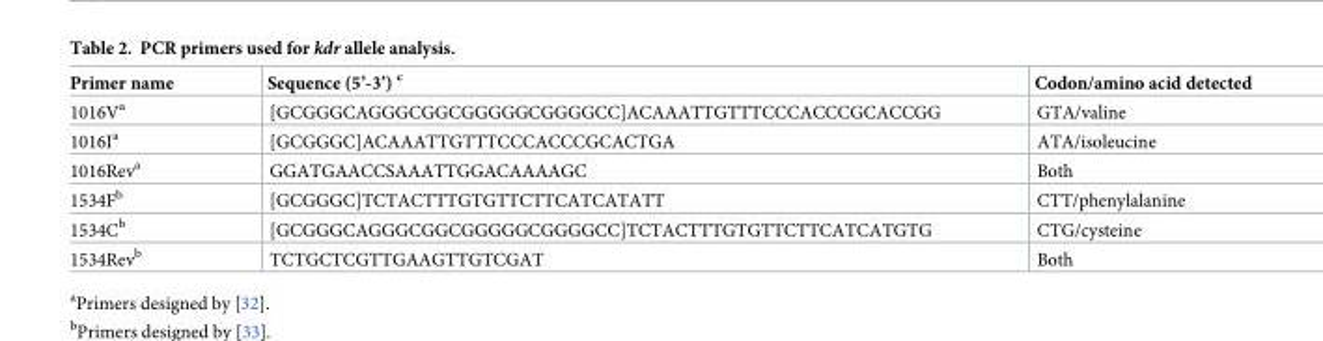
<table><thead><tr><td>Primer name</td><td>Sequence (5’-3’) <sup>c</sup></td><td>Codon/amino acid detected</td></tr></thead><tbody><tr><td>1016V<sup>a</sup></td><td>[GCGGGCAGGGCGGCGGGGGCGGGGCC]ACAAATTGTTTCCCACCCGCACCGG</td><td>GTA/valine</td></tr><tr><td>1016I<sup>a</sup></td><td>[GCGGGC]ACAAATTGTTTCCCACCCGCACTGA</td><td>ATA/isoleucine</td></tr><tr><td>1016Rev<sup>a</sup></td><td>GGATGAACCSAAATTGGACAAAAGC</td><td>Both</td></tr><tr><td>1534F<sup>b</sup></td><td>[GCGGGC]TCTACTTTGTGTTCTTCATCATATT</td><td>CTT/phenylalanine</td></tr><tr><td>1534C<sup>b</sup></td><td>[GCGGGCAGGGCGGCGGGGGCGGGGCC]TCTACTTTGTGTTCTTCATCATGTG</td><td>CTG/cysteine</td></tr><tr><td>1534Rev<sup>b</sup></td><td>TCTGCTCGTTGAAGTTGTCGAT</td><td>Both</td></tr></tbody></table>